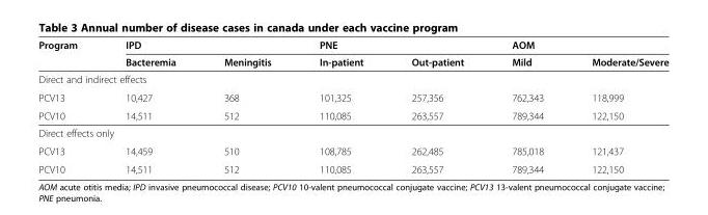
<table><thead><tr><td rowspan="2">Program</td><td colspan="2">IPD</td><td colspan="2">PNE</td><td colspan="2">AOM</td></tr><tr><td>Bacteremia</td><td>Meningitis</td><td>In-patient</td><td>Out-patient</td><td>Mild</td><td>Moderate/Severe</td></tr></thead><tbody><tr><td colspan="7">Direct and indirect effects</td></tr><tr><td>PCV13</td><td>10,427</td><td>368</td><td>101,325</td><td>257,356</td><td>762,343</td><td>118,999</td></tr><tr><td>PCV10</td><td>14,511</td><td>512</td><td>110,085</td><td>263,557</td><td>789,344</td><td>122,150</td></tr><tr><td colspan="7">Direct effects only</td></tr><tr><td>PCV13</td><td>14,459</td><td>510</td><td>108,785</td><td>262,485</td><td>785,018</td><td>121,437</td></tr><tr><td>PCV10</td><td>14,511</td><td>512</td><td>110,085</td><td>263,557</td><td>789,344</td><td>122,150</td></tr></tbody></table>